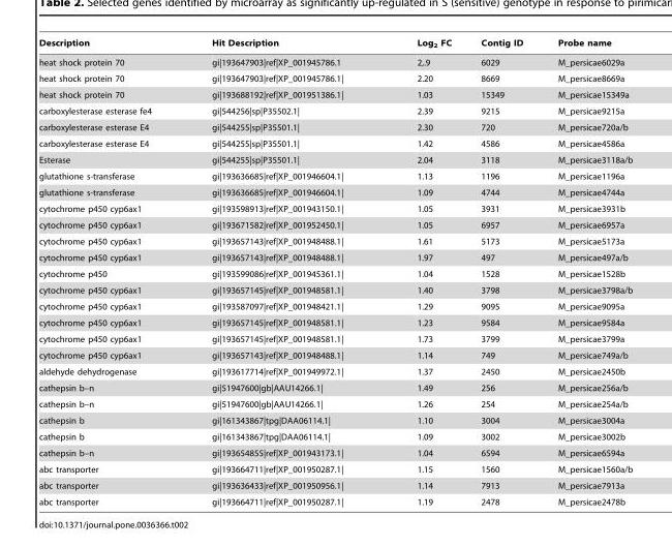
<table><thead><tr><td>Description</td><td>Hit Description</td><td>Log<sub>2</sub> FC</td><td>Contig ID</td><td>Probe name</td></tr></thead><tbody><tr><td>heat shock protein 70</td><td>gi|193647903|ref|XP_001945786.1</td><td>2,.9</td><td>6029</td><td>M_persicae6029a</td></tr><tr><td>heat shock protein 70</td><td>gi|193647903|ref|XP_001945786.1|</td><td>2.20</td><td>8669</td><td>M_persicae8669a</td></tr><tr><td>heat shock protein 70</td><td>gi|193688192|ref|XP_001951386.1|</td><td>1.03</td><td>15349</td><td>M_persicae15349a</td></tr><tr><td>carboxylesterase esterase fe4</td><td>gi|544256|sp|P35502.1|</td><td>2.39</td><td>9215</td><td>M_persicae9215a</td></tr><tr><td>carboxylesterase esterase E4</td><td>gi|544255|sp|P35501.1|</td><td>2.30</td><td>720</td><td>M_persicae720a/b</td></tr><tr><td>carboxylesterase esterase E4</td><td>gi|544255|sp|P35501.1|</td><td>1.42</td><td>4586</td><td>M_persicae4586a</td></tr><tr><td>Esterase</td><td>gi|544255|sp|P35501.1|</td><td>2.04</td><td>3118</td><td>M_persicae3118a/b</td></tr><tr><td>glutathione s-transferase</td><td>gi|193636685|ref|XP_001946604.1|</td><td>1.13</td><td>1196</td><td>M_persicae1196a</td></tr><tr><td>glutathione s-transferase</td><td>gi|193636685|ref|XP_001946604.1|</td><td>1.09</td><td>4744</td><td>M_persicae4744a</td></tr><tr><td>cytochrome p450 cyp6ax1</td><td>gi|193598913|ref|XP_001943150.1|</td><td>1.05</td><td>3931</td><td>M_persicae3931b</td></tr><tr><td>cytochrome p450 cyp6ax1</td><td>gi|193671582|ref|XP_001952450.1|</td><td>1.05</td><td>6957</td><td>M_persicae6957a</td></tr><tr><td>cytochrome p450 cyp6ax1</td><td>gi|193657143|ref|XP_001948488.1|</td><td>1.61</td><td>5173</td><td>M_persicae5173a</td></tr><tr><td>cytochrome p450 cyp6ax1</td><td>gi|193657143|ref|XP_001948488.1|</td><td>1.97</td><td>497</td><td>M_persicae497a/b</td></tr><tr><td>cytochrome p450</td><td>gi|193599086|ref|XP_001945361.1|</td><td>1.04</td><td>1528</td><td>M_persicae1528b</td></tr><tr><td>cytochrome p450 cyp6ax1</td><td>gi|193657145|ref|XP_001948581.1|</td><td>1.40</td><td>3798</td><td>M_persicae3798a/b</td></tr><tr><td>cytochrome p450 cyp6ax1</td><td>gi|193587097|ref|XP_001948421.1|</td><td>1.29</td><td>9095</td><td>M_persicae9095a</td></tr><tr><td>cytochrome p450 cyp6ax1</td><td>gi|193657145|ref|XP_001948581.1|</td><td>1.23</td><td>9584</td><td>M_persicae9584a</td></tr><tr><td>cytochrome p450 cyp6ax1</td><td>gi|193657145|ref|XP_001948581.1|</td><td>1.73</td><td>3799</td><td>M_persicae3799a</td></tr><tr><td>cytochrome p450 cyp6ax1</td><td>gi|193657143|ref|XP_001948488.1|</td><td>1.14</td><td>749</td><td>M_persicae749a/b</td></tr><tr><td>aldehyde dehydrogenase</td><td>gi|193617714|ref|XP_001949972.1|</td><td>1.37</td><td>2450</td><td>M_persicae2450b</td></tr><tr><td>cathepsin b–n</td><td>gi|51947600|gb|AAU14266.1|</td><td>1.49</td><td>256</td><td>M_persicae256a/b</td></tr><tr><td>cathepsin b–n</td><td>gi|51947600|gb|AAU14266.1|</td><td>1.26</td><td>254</td><td>M_persicae254a/b</td></tr><tr><td>cathepsin b</td><td>gi|161343867|tpg|DAA06114.1|</td><td>1.10</td><td>3004</td><td>M_persicae3004a</td></tr><tr><td>cathepsin b</td><td>gi|161343867|tpg|DAA06114.1|</td><td>1.09</td><td>3002</td><td>M_persicae3002b</td></tr><tr><td>cathepsin b–n</td><td>gi|193654855|ref|XP_001943173.1|</td><td>1.04</td><td>6594</td><td>M_persicae6594a</td></tr><tr><td>abc transporter</td><td>gi|193664711|ref|XP_001950287.1|</td><td>1.15</td><td>1560</td><td>M_persicae1560a/b</td></tr><tr><td>abc transporter</td><td>gi|193636433|ref|XP_001950956.1|</td><td>1.14</td><td>7913</td><td>M_persicae7913a</td></tr><tr><td>abc transporter</td><td>gi|193664711|ref|XP_001950287.1|</td><td>1.19</td><td>2478</td><td>M_persicae2478b</td></tr></tbody></table>